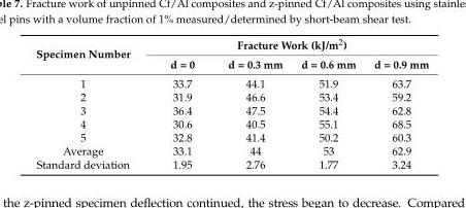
<table><thead><tr><td rowspan="2">Specimen Number</td><td colspan="4">Fracture Work (kJ/m<sup>2</sup>)</td></tr><tr><td>d = 0</td><td>d = 0.3 mm</td><td>d = 0.6 mm</td><td>d = 0.9 mm</td></tr></thead><tbody><tr><td>1</td><td>33.7</td><td>44.1</td><td>51.9</td><td>63.7</td></tr><tr><td>2</td><td>31.9</td><td>46.6</td><td>53.4</td><td>59.2</td></tr><tr><td>3</td><td>36.4</td><td>47.5</td><td>54.4</td><td>62.8</td></tr><tr><td>4</td><td>30.6</td><td>40.5</td><td>55.1</td><td>68.5</td></tr><tr><td>5</td><td>32.8</td><td>41.4</td><td>50.2</td><td>60.3</td></tr><tr><td>Average</td><td>33.1</td><td>44</td><td>53</td><td>62.9</td></tr><tr><td>Standard deviation</td><td>1.95</td><td>2.76</td><td>1.77</td><td>3.24</td></tr></tbody></table>